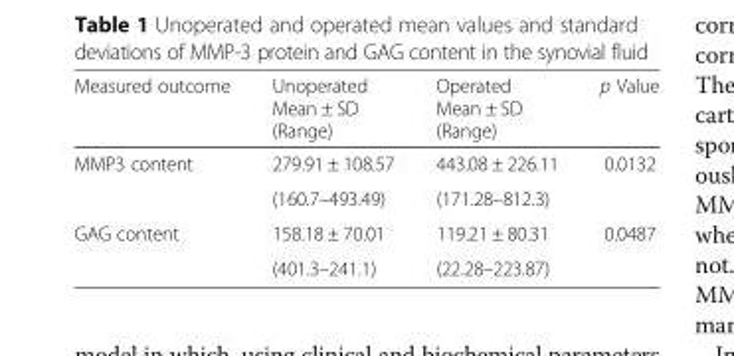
<table><thead><tr><td>Measured outcome</td><td>Unoperated Mean ± SD (Range)</td><td>Operated Mean ± SD (Range)</td><td>p Value</td></tr></thead><tbody><tr><td rowspan="2">MMP3 content</td><td>279.91 ± 108.57</td><td>443.08 ± 226.11</td><td rowspan="2">0.0132</td></tr><tr><td>(160.7–493.49)</td><td>(171.28–812.3)</td></tr><tr><td rowspan="2">GAG content</td><td>158.18 ± 70.01</td><td>119.21 ± 80.31</td><td rowspan="2">0.0487</td></tr><tr><td>(401.3–241.1)</td><td>(22.28–223.87)</td></tr></tbody></table>